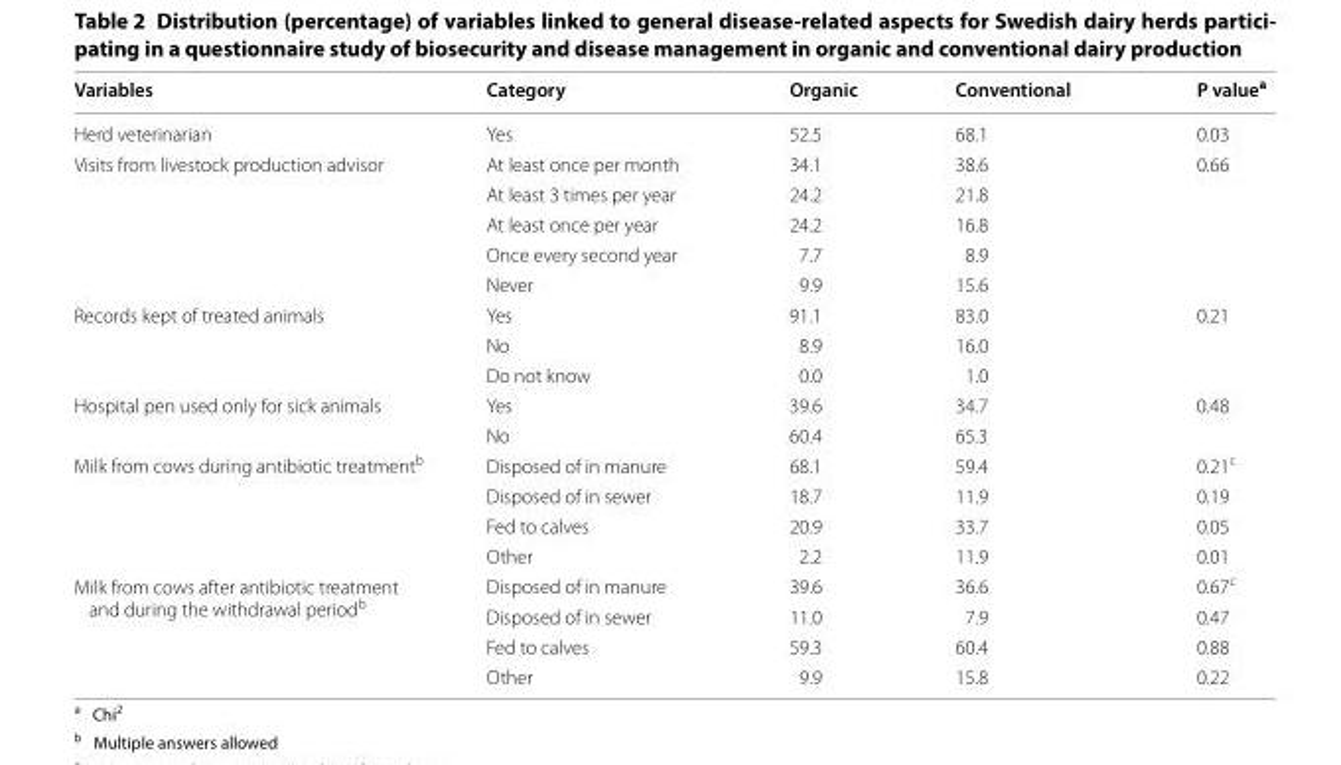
<table><thead><tr><td>Variables</td><td>Category</td><td>Organic</td><td>Conventional</td><td>P value<sup>a</sup></td></tr></thead><tbody><tr><td>Herd veterinarian</td><td>Yes</td><td>52.5</td><td>68.1</td><td>0.03</td></tr><tr><td rowspan="5">Visits from livestock production advisor</td><td>At least once per month</td><td>34.1</td><td>38.6</td><td>0.66</td></tr><tr><td>At least 3 times per year</td><td>24.2</td><td>21.8</td><td></td></tr><tr><td>At least once per year</td><td>24.2</td><td>16.8</td><td></td></tr><tr><td>Once every second year</td><td>7.7</td><td>8.9</td><td></td></tr><tr><td>Never</td><td>9.9</td><td>15.6</td><td></td></tr><tr><td rowspan="3">Records kept of treated animals</td><td>Yes</td><td>91.1</td><td>83.0</td><td>0.21</td></tr><tr><td>No</td><td>8.9</td><td>16.0</td><td></td></tr><tr><td>Do not know</td><td>0.0</td><td>1.0</td><td></td></tr><tr><td rowspan="2">Hospital pen used only for sick animals</td><td>Yes</td><td>39.6</td><td>34.7</td><td>0.48</td></tr><tr><td>No</td><td>60.4</td><td>65.3</td><td></td></tr><tr><td rowspan="4">Milk from cows during antibiotic treatment<sup>b</sup></td><td>Disposed of in manure</td><td>68.1</td><td>59.4</td><td>0.21<sup>c</sup></td></tr><tr><td>Disposed of in sewer</td><td>18.7</td><td>11.9</td><td>0.19</td></tr><tr><td>Fed to calves</td><td>20.9</td><td>33.7</td><td>0.05</td></tr><tr><td>Other</td><td>2.2</td><td>11.9</td><td>0.01</td></tr><tr><td rowspan="4">Milk from cows after antibiotic treatment and during the withdrawal period<sup>b</sup></td><td>Disposed of in manure</td><td>39.6</td><td>36.6</td><td>0.67<sup>c</sup></td></tr><tr><td>Disposed of in sewer</td><td>11.0</td><td>7.9</td><td>0.47</td></tr><tr><td>Fed to calves</td><td>59.3</td><td>60.4</td><td>0.88</td></tr><tr><td>Other</td><td>9.9</td><td>15.8</td><td>0.22</td></tr></tbody></table>